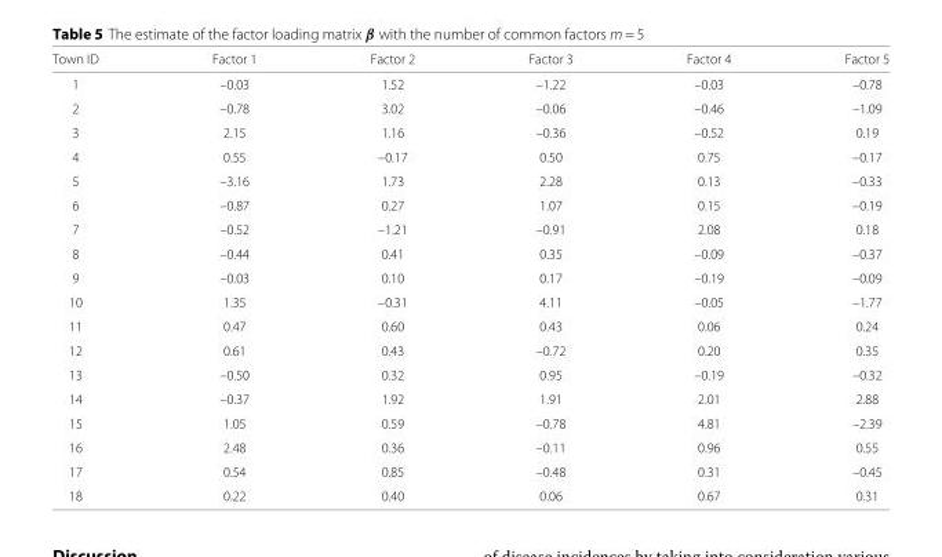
<table><thead><tr><td>Town ID</td><td>Factor 1</td><td>Factor 2</td><td>Factor 3</td><td>Factor 4</td><td>Factor 5</td></tr></thead><tbody><tr><td>1</td><td>–0.03</td><td>1.52</td><td>–1.22</td><td>–0.03</td><td>–0.78</td></tr><tr><td>2</td><td>–0.78</td><td>3.02</td><td>–0.06</td><td>–0.46</td><td>–1.09</td></tr><tr><td>3</td><td>2.15</td><td>1.16</td><td>–0.36</td><td>–0.52</td><td>0.19</td></tr><tr><td>4</td><td>0.55</td><td>–0.17</td><td>0.50</td><td>0.75</td><td>–0.17</td></tr><tr><td>5</td><td>–3.16</td><td>1.73</td><td>2.28</td><td>0.13</td><td>–0.33</td></tr><tr><td>6</td><td>–0.87</td><td>0.27</td><td>1.07</td><td>0.15</td><td>–0.19</td></tr><tr><td>7</td><td>–0.52</td><td>–1.21</td><td>–0.91</td><td>2.08</td><td>0.18</td></tr><tr><td>8</td><td>–0.44</td><td>0.41</td><td>0.35</td><td>–0.09</td><td>–0.37</td></tr><tr><td>9</td><td>–0.03</td><td>0.10</td><td>0.17</td><td>–0.19</td><td>–0.09</td></tr><tr><td>10</td><td>1.35</td><td>–0.31</td><td>4.11</td><td>–0.05</td><td>–1.77</td></tr><tr><td>11</td><td>0.47</td><td>0.60</td><td>0.43</td><td>0.06</td><td>0.24</td></tr><tr><td>12</td><td>0.61</td><td>0.43</td><td>–0.72</td><td>0.20</td><td>0.35</td></tr><tr><td>13</td><td>–0.50</td><td>0.32</td><td>0.95</td><td>–0.19</td><td>–0.32</td></tr><tr><td>14</td><td>–0.37</td><td>1.92</td><td>1.91</td><td>2.01</td><td>2.88</td></tr><tr><td>15</td><td>1.05</td><td>0.59</td><td>–0.78</td><td>4.81</td><td>–2.39</td></tr><tr><td>16</td><td>2.48</td><td>0.36</td><td>–0.11</td><td>0.96</td><td>0.55</td></tr><tr><td>17</td><td>0.54</td><td>0.85</td><td>–0.48</td><td>0.31</td><td>–0.45</td></tr><tr><td>18</td><td>0.22</td><td>0.40</td><td>0.06</td><td>0.67</td><td>0.31</td></tr></tbody></table>